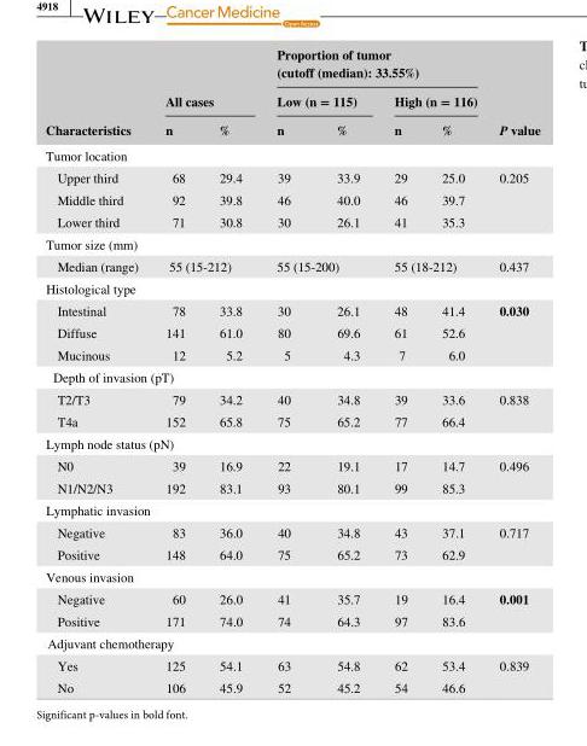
<table><thead><tr><td rowspan="3">Characteristics</td><td rowspan="2" colspan="2">All cases</td><td colspan="4">Proportion of tumor (cutoff (median): 33.55%)</td><td rowspan="3">P value</td></tr><tr><td colspan="2">Low (n = 115)</td><td colspan="2">High (n = 116)</td></tr><tr><td>n</td><td>%</td><td>n</td><td>%</td><td>n</td><td>%</td></tr></thead><tbody><tr><td colspan="8">Tumor location</td></tr><tr><td>Upper third</td><td>68</td><td>29.4</td><td>39</td><td>33.9</td><td>29</td><td>25.0</td><td rowspan="3">0.205</td></tr><tr><td>Middle third</td><td>92</td><td>39.8</td><td>46</td><td>40.0</td><td>46</td><td>39.7</td></tr><tr><td>Lower third</td><td>71</td><td>30.8</td><td>30</td><td>26.1</td><td>41</td><td>35.3</td></tr><tr><td colspan="8">Tumor size (mm)</td></tr><tr><td>Median (range)</td><td colspan="2">55 (15- 212)</td><td colspan="2">55 (15- 200)</td><td colspan="2">55 (18- 212)</td><td>0.437</td></tr><tr><td colspan="8">Histological type</td></tr><tr><td>Intestinal</td><td>78</td><td>33.8</td><td>30</td><td>26.1</td><td>48</td><td>41.4</td><td rowspan="3">0.030</td></tr><tr><td>Diffuse</td><td>141</td><td>61.0</td><td>80</td><td>69.6</td><td>61</td><td>52.6</td></tr><tr><td>Mucinous</td><td>12</td><td>5.2</td><td>5</td><td>4.3</td><td>7</td><td>6.0</td></tr><tr><td colspan="8">Depth of invasion (pT)</td></tr><tr><td>T2/T3</td><td>79</td><td>34.2</td><td>40</td><td>34.8</td><td>39</td><td>33.6</td><td rowspan="2">0.838</td></tr><tr><td>T4a</td><td>152</td><td>65.8</td><td>75</td><td>65.2</td><td>77</td><td>66.4</td></tr><tr><td colspan="8">Lymph node status (pN)</td></tr><tr><td>N0</td><td>39</td><td>16.9</td><td>22</td><td>19.1</td><td>17</td><td>14.7</td><td rowspan="2">0.496</td></tr><tr><td>N1/N2/N3</td><td>192</td><td>83.1</td><td>93</td><td>80.1</td><td>99</td><td>85.3</td></tr><tr><td colspan="8">Lymphatic invasion</td></tr><tr><td>Negative</td><td>83</td><td>36.0</td><td>40</td><td>34.8</td><td>43</td><td>37.1</td><td rowspan="2">0.717</td></tr><tr><td>Positive</td><td>148</td><td>64.0</td><td>75</td><td>65.2</td><td>73</td><td>62.9</td></tr><tr><td colspan="8">Venous invasion</td></tr><tr><td>Negative</td><td>60</td><td>26.0</td><td>41</td><td>35.7</td><td>19</td><td>16.4</td><td rowspan="2">0.001</td></tr><tr><td>Positive</td><td>171</td><td>74.0</td><td>74</td><td>64.3</td><td>97</td><td>83.6</td></tr><tr><td colspan="8">Adjuvant chemotherapy</td></tr><tr><td>Yes</td><td>125</td><td>54.1</td><td>63</td><td>54.8</td><td>62</td><td>53.4</td><td rowspan="2">0.839</td></tr><tr><td>No</td><td>106</td><td>45.9</td><td>52</td><td>45.2</td><td>54</td><td>46.6</td></tr></tbody></table>